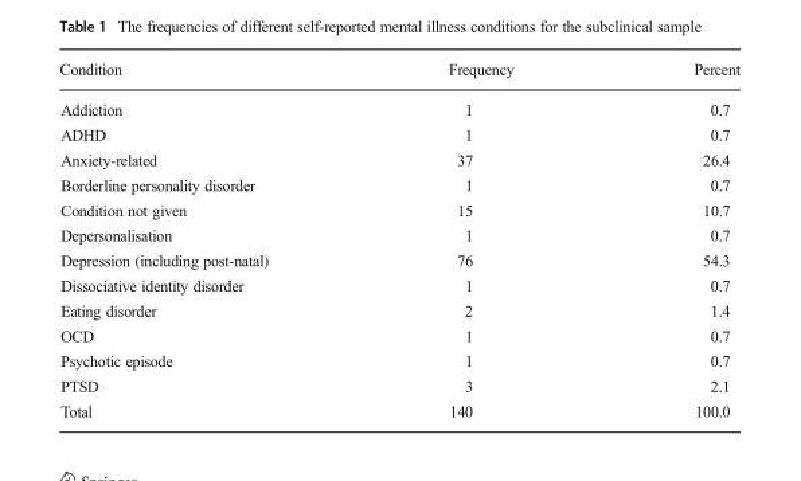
<table><thead><tr><td>Condition</td><td>Frequency</td><td>Percent</td></tr></thead><tbody><tr><td>Addiction</td><td>1</td><td>0.7</td></tr><tr><td>ADHD</td><td>1</td><td>0.7</td></tr><tr><td>Anxiety-related</td><td>37</td><td>26.4</td></tr><tr><td>Borderline personality disorder</td><td>1</td><td>0.7</td></tr><tr><td>Condition not given</td><td>15</td><td>10.7</td></tr><tr><td>Depersonalisation</td><td>1</td><td>0.7</td></tr><tr><td>Depression (including post-natal)</td><td>76</td><td>54.3</td></tr><tr><td>Dissociative identity disorder</td><td>1</td><td>0.7</td></tr><tr><td>Eating disorder</td><td>2</td><td>1.4</td></tr><tr><td>OCD</td><td>1</td><td>0.7</td></tr><tr><td>Psychotic episode</td><td>1</td><td>0.7</td></tr><tr><td>PTSD</td><td>3</td><td>2.1</td></tr><tr><td>Total</td><td>140</td><td>100.0</td></tr></tbody></table>